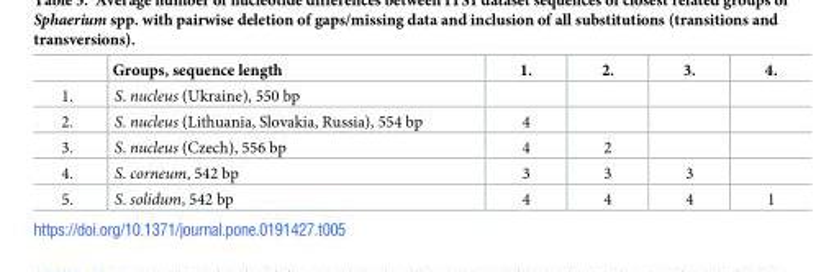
<table><thead><tr><td></td><td>Groups, sequence length</td><td>1.</td><td>2.</td><td>3.</td><td>4.</td></tr></thead><tbody><tr><td>1.</td><td>S. nucleus (Ukraine), 550 bp</td><td></td><td></td><td></td><td></td></tr><tr><td>2.</td><td>S. nucleus (Lithuania, Slovakia, Russia), 554 bp</td><td>4</td><td></td><td></td><td></td></tr><tr><td>3.</td><td>S. nucleus (Czech), 556 bp</td><td>4</td><td>2</td><td></td><td></td></tr><tr><td>4.</td><td>S. corneum, 542 bp</td><td>3</td><td>3</td><td>3</td><td></td></tr><tr><td>5.</td><td>S. solidum, 542 bp</td><td>4</td><td>4</td><td>4</td><td>1</td></tr></tbody></table>